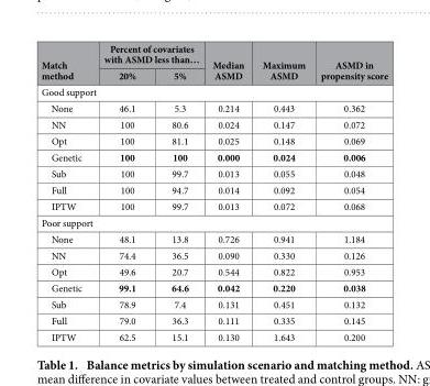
<table><thead><tr><td rowspan="2">Match method</td><td colspan="2">Percent of covariates with ASMD less than…</td><td rowspan="2">Median ASMD</td><td rowspan="2">Maximum ASMD</td><td rowspan="2">ASMD in propensity score</td></tr><tr><td>20%</td><td>5%</td></tr></thead><tbody><tr><td colspan="6">Good support</td></tr><tr><td>None</td><td>46.1</td><td>5.3</td><td>0.214</td><td>0.443</td><td>0.362</td></tr><tr><td>NN</td><td>100</td><td>80.6</td><td>0.024</td><td>0.147</td><td>0.072</td></tr><tr><td>Opt</td><td>100</td><td>81.1</td><td>0.025</td><td>0.148</td><td>0.069</td></tr><tr><td>Genetic</td><td>100</td><td>100</td><td>0.000</td><td>0.024</td><td>0.006</td></tr><tr><td>Sub</td><td>100</td><td>99.7</td><td>0.013</td><td>0.055</td><td>0.048</td></tr><tr><td>Full</td><td>100</td><td>94.7</td><td>0.014</td><td>0.092</td><td>0.054</td></tr><tr><td>IPTW</td><td>100</td><td>99.7</td><td>0.013</td><td>0.072</td><td>0.068</td></tr><tr><td colspan="6">Poor support</td></tr><tr><td>None</td><td>48.1</td><td>13.8</td><td>0.726</td><td>0.941</td><td>1.184</td></tr><tr><td>NN</td><td>74.4</td><td>36.5</td><td>0.090</td><td>0.330</td><td>0.126</td></tr><tr><td>Opt</td><td>49.6</td><td>20.7</td><td>0.544</td><td>0.822</td><td>0.953</td></tr><tr><td>Genetic</td><td>99.1</td><td>64.6</td><td>0.042</td><td>0.220</td><td>0.038</td></tr><tr><td>Sub</td><td>78.9</td><td>7.4</td><td>0.131</td><td>0.451</td><td>0.132</td></tr><tr><td>Full</td><td>79.0</td><td>36.3</td><td>0.111</td><td>0.335</td><td>0.145</td></tr><tr><td>IPTW</td><td>62.5</td><td>15.1</td><td>0.130</td><td>1.643</td><td>0.200</td></tr></tbody></table>